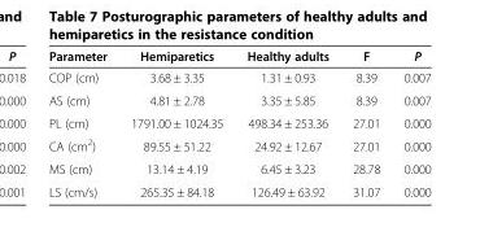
<table><thead><tr><td>Parameter</td><td>Hemiparetics</td><td>Healthy adults</td><td>F</td><td>P</td></tr></thead><tbody><tr><td>COP (cm)</td><td>3.68 ± 3.35</td><td>1.31 ± 0.93</td><td>8.39</td><td>0.007</td></tr><tr><td>AS (cm)</td><td>4.81 ± 2.78</td><td>3.35 ± 5.85</td><td>8.39</td><td>0.007</td></tr><tr><td>PL (cm)</td><td>1791.00 ± 1024.35</td><td>498.34 ± 253.36</td><td>27.01</td><td>0.000</td></tr><tr><td>CA (cm<sup>2</sup>)</td><td>89.55 ± 51.22</td><td>24.92 ± 12.67</td><td>27.01</td><td>0.000</td></tr><tr><td>MS (cm)</td><td>13.14 ± 4.19</td><td>6.45 ± 3.23</td><td>28.78</td><td>0.000</td></tr><tr><td>LS (cm/s)</td><td>265.35 ± 84.18</td><td>126.49 ± 63.92</td><td>31.07</td><td>0.000</td></tr></tbody></table>